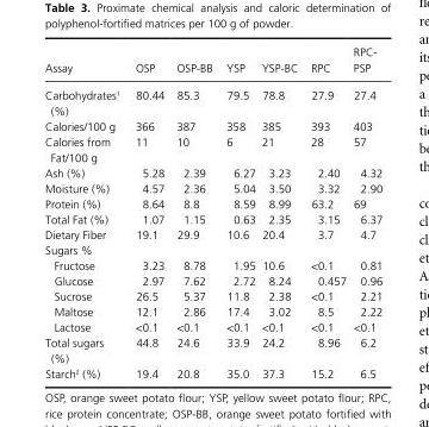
<table><thead><tr><td>Assay</td><td>OSP</td><td>OSP- BB</td><td>YSP</td><td>YSP- BC</td><td>RPC</td><td>RPC- PSP</td></tr></thead><tbody><tr><td>Carbohydrates<sup>1</sup> (%)</td><td>80.44</td><td>85.3</td><td>79.5</td><td>78.8</td><td>27.9</td><td>27.4</td></tr><tr><td>Calories/100 g</td><td>366</td><td>387</td><td>358</td><td>385</td><td>393</td><td>403</td></tr><tr><td>Calories from Fat/100 g</td><td>11</td><td>10</td><td>6</td><td>21</td><td>28</td><td>57</td></tr><tr><td>Ash (%)</td><td>5.28</td><td>2.39</td><td>6.27</td><td>3.23</td><td>2.40</td><td>4.32</td></tr><tr><td>Moisture (%)</td><td>4.57</td><td>2.36</td><td>5.04</td><td>3.50</td><td>3.32</td><td>2.90</td></tr><tr><td>Protein (%)</td><td>8.64</td><td>8.8</td><td>8.59</td><td>8.99</td><td>63.2</td><td>69</td></tr><tr><td>Total Fat (%)</td><td>1.07</td><td>1.15</td><td>0.63</td><td>2.35</td><td>3.15</td><td>6.37</td></tr><tr><td>Dietary Fiber</td><td>19.1</td><td>29.9</td><td>10.6</td><td>20.4</td><td>3.7</td><td>4.7</td></tr><tr><td colspan="7">Sugars %</td></tr><tr><td>Fructose</td><td>3.23</td><td>8.78</td><td>1.95</td><td>10.6</td><td>&lt;0.1</td><td>0.81</td></tr><tr><td>Glucose</td><td>2.97</td><td>7.62</td><td>2.72</td><td>8.24</td><td>0.457</td><td>0.96</td></tr><tr><td>Sucrose</td><td>26.5</td><td>5.37</td><td>11.8</td><td>2.38</td><td>&lt;0.1</td><td>2.21</td></tr><tr><td>Maltose</td><td>12.1</td><td>2.86</td><td>17.4</td><td>3.02</td><td>8.5</td><td>2.22</td></tr><tr><td>Lactose</td><td>&lt;0.1</td><td>&lt;0.1</td><td>&lt;0.1</td><td>&lt;0.1</td><td>&lt;0.1</td><td>&lt;0.1</td></tr><tr><td>Total sugars (%)</td><td>44.8</td><td>24.6</td><td>33.9</td><td>24.2</td><td>8.96</td><td>6.2</td></tr><tr><td>Starch<sup>2</sup> (%)</td><td>19.4</td><td>20.8</td><td>35.0</td><td>37.3</td><td>15.2</td><td>6.5</td></tr></tbody></table>